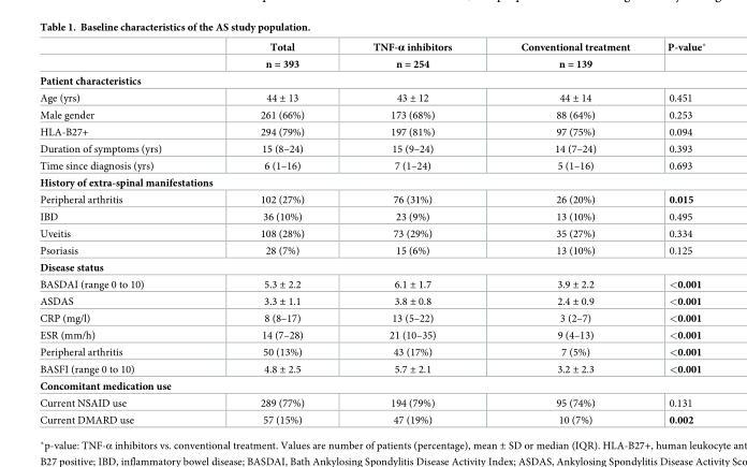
<table><thead><tr><td rowspan="2"></td><td rowspan="2">Total n = 393</td><td rowspan="2">TNF-α inhibitors n = 254</td><td rowspan="2">Conventional treatment n = 139</td><td rowspan="2">P-value*</td></tr><tr></tr></thead><tbody><tr><td colspan="5">Patient characteristics</td></tr><tr><td>Age (yrs)</td><td>44 ± 13</td><td>43 ± 12</td><td>44 ± 14</td><td>0.451</td></tr><tr><td>Male gender</td><td>261 (66%)</td><td>173 (68%)</td><td>88 (64%)</td><td>0.253</td></tr><tr><td>HLA-B27+</td><td>294 (79%)</td><td>197 (81%)</td><td>97 (75%)</td><td>0.094</td></tr><tr><td>Duration of symptoms (yrs)</td><td>15 (8–24)</td><td>15 (9–24)</td><td>14 (7–24)</td><td>0.393</td></tr><tr><td>Time since diagnosis (yrs)</td><td>6 (1–16)</td><td>7 (1–24)</td><td>5 (1–16)</td><td>0.693</td></tr><tr><td colspan="5">History of extra-spinal manifestations</td></tr><tr><td>Peripheral arthritis</td><td>102 (27%)</td><td>76 (31%)</td><td>26 (20%)</td><td>0.015</td></tr><tr><td>IBD</td><td>36 (10%)</td><td>23 (9%)</td><td>13 (10%)</td><td>0.495</td></tr><tr><td>Uveitis</td><td>108 (28%)</td><td>73 (29%)</td><td>35 (27%)</td><td>0.334</td></tr><tr><td>Psoriasis</td><td>28 (7%)</td><td>15 (6%)</td><td>13 (10%)</td><td>0.125</td></tr><tr><td colspan="5">Disease status</td></tr><tr><td>BASDAI (range 0 to 10)</td><td>5.3 ± 2.2</td><td>6.1 ± 1.7</td><td>3.9 ± 2.2</td><td>&lt;0.001</td></tr><tr><td>ASDAS</td><td>3.3 ± 1.1</td><td>3.8 ± 0.8</td><td>2.4 ± 0.9</td><td>&lt;0.001</td></tr><tr><td>CRP (mg/l)</td><td>8 (8–17)</td><td>13 (5–22)</td><td>3 (2–7)</td><td>&lt;0.001</td></tr><tr><td>ESR (mm/h)</td><td>14 (7–28)</td><td>21 (10–35)</td><td>9 (4–13)</td><td>&lt;0.001</td></tr><tr><td>Peripheral arthritis</td><td>50 (13%)</td><td>43 (17%)</td><td>7 (5%)</td><td>&lt;0.001</td></tr><tr><td>BASFI (range 0 to 10)</td><td>4.8 ± 2.5</td><td>5.7 ± 2.1</td><td>3.2 ± 2.3</td><td>&lt;0.001</td></tr><tr><td colspan="5">Concomitant medication use</td></tr><tr><td>Current NSAID use</td><td>289 (77%)</td><td>194 (79%)</td><td>95 (74%)</td><td>0.131</td></tr><tr><td>Current DMARD use</td><td>57 (15%)</td><td>47 (19%)</td><td>10 (7%)</td><td>0.002</td></tr></tbody></table>